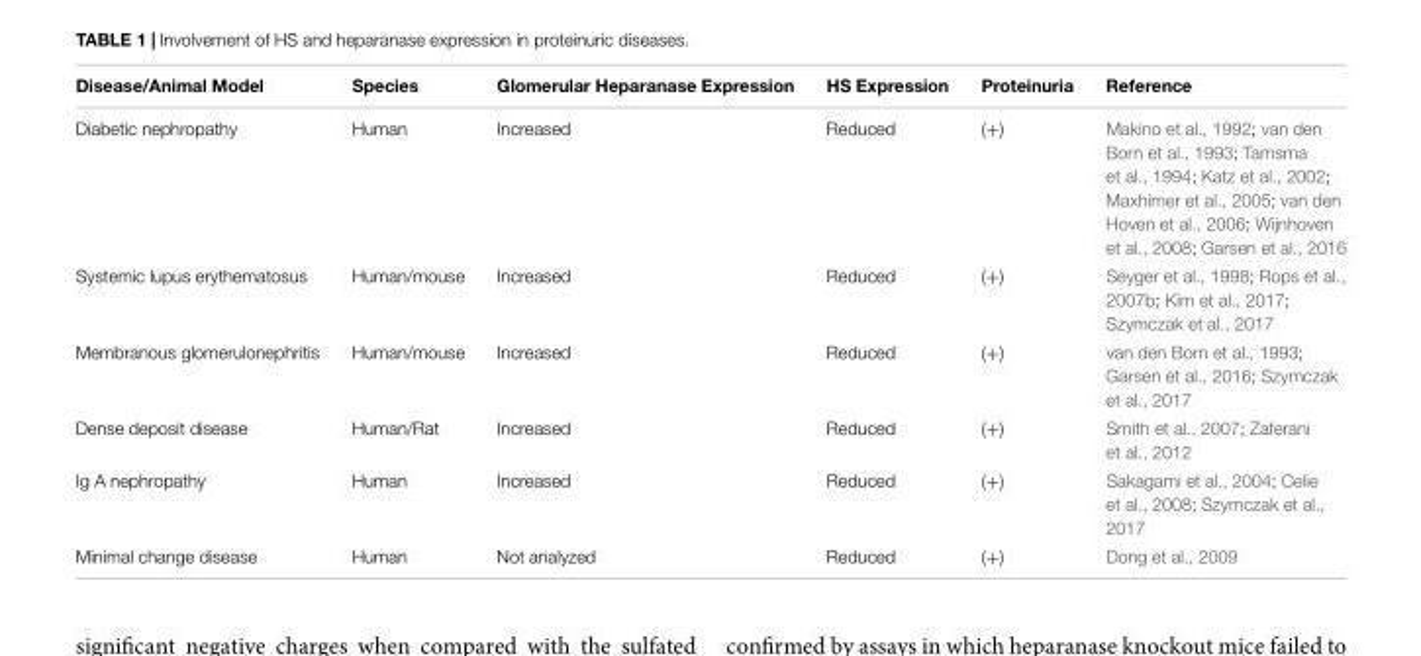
<table><thead><tr><td>Disease/Animal Model</td><td>Species</td><td>Glomerular Heparanase Expression</td><td>HS Expression</td><td>Proteinuria</td><td>Reference</td></tr></thead><tbody><tr><td>Diabetic nephropathy</td><td>Human</td><td>Increased</td><td>Reduced</td><td>(+)</td><td>Makino et al., 1992; van den Born et al., 1993; Tamsma et al., 1994; Katz et al., 2002; Maxhimer et al., 2005; van den Hoven et al., 2006; Wijnhoven et al., 2008; Garsen et al., 2016</td></tr><tr><td>Systemic lupus erythematosus</td><td>Human/mouse</td><td>Increased</td><td>Reduced</td><td>(+)</td><td>Seyger et al., 1998; Rops et al., 2007b; Kim et al., 2017; Szymczak et al., 2017</td></tr><tr><td>Membranous glomerulonephritis</td><td>Human/mouse</td><td>Increased</td><td>Reduced</td><td>(+)</td><td>van den Born et al., 1993; Garsen et al., 2016; Szymczak et al., 2017</td></tr><tr><td>Dense deposit disease</td><td>Human/Rat</td><td>Increased</td><td>Reduced</td><td>(+)</td><td>Smith et al., 2007; Zaferani et al., 2012</td></tr><tr><td>Ig A nephropathy</td><td>Human</td><td>Increased</td><td>Reduced</td><td>(+)</td><td>Sakagami et al., 2004; Celie et al., 2008; Szymczak et al., 2017</td></tr><tr><td>Minimal change disease</td><td>Human</td><td>Not analyzed</td><td>Reduced</td><td>(+)</td><td>Dong et al., 2009</td></tr></tbody></table>